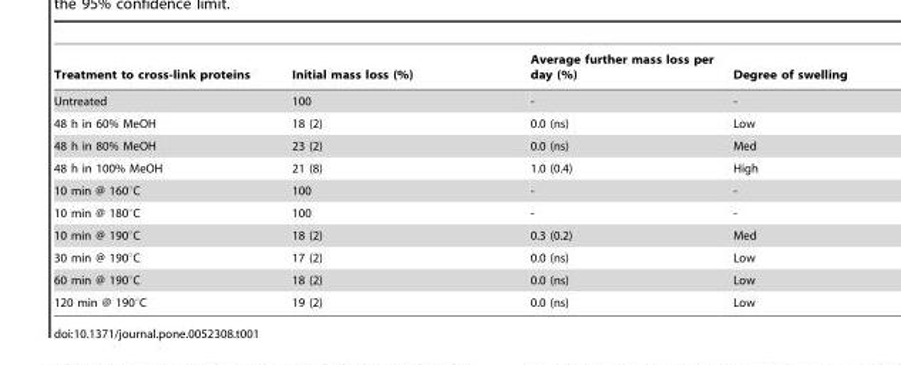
<table><thead><tr><td>Treatment to cross-link proteins</td><td>Initial mass loss (%)</td><td>Average further mass loss per day (%)</td><td>Degree of swelling</td></tr></thead><tbody><tr><td>Untreated</td><td>100</td><td>-</td><td>-</td></tr><tr><td>48 h in 60% MeOH</td><td>18 (2)</td><td>0.0 (ns)</td><td>Low</td></tr><tr><td>48 h in 80% MeOH</td><td>23 (2)</td><td>0.0 (ns)</td><td>Med</td></tr><tr><td>48 h in 100% MeOH</td><td>21 (8)</td><td>1.0 (0.4)</td><td>High</td></tr><tr><td>10 min @ 160°C</td><td>100</td><td>-</td><td>-</td></tr><tr><td>10 min @ 180°C</td><td>100</td><td>-</td><td>-</td></tr><tr><td>10 min @ 190°C</td><td>18 (2)</td><td>0.3 (0.2)</td><td>Med</td></tr><tr><td>30 min @ 190°C</td><td>17 (2)</td><td>0.0 (ns)</td><td>Low</td></tr><tr><td>60 min @ 190°C</td><td>18 (2)</td><td>0.0 (ns)</td><td>Low</td></tr><tr><td>120 min @ 190°C</td><td>19 (2)</td><td>0.0 (ns)</td><td>Low</td></tr></tbody></table>